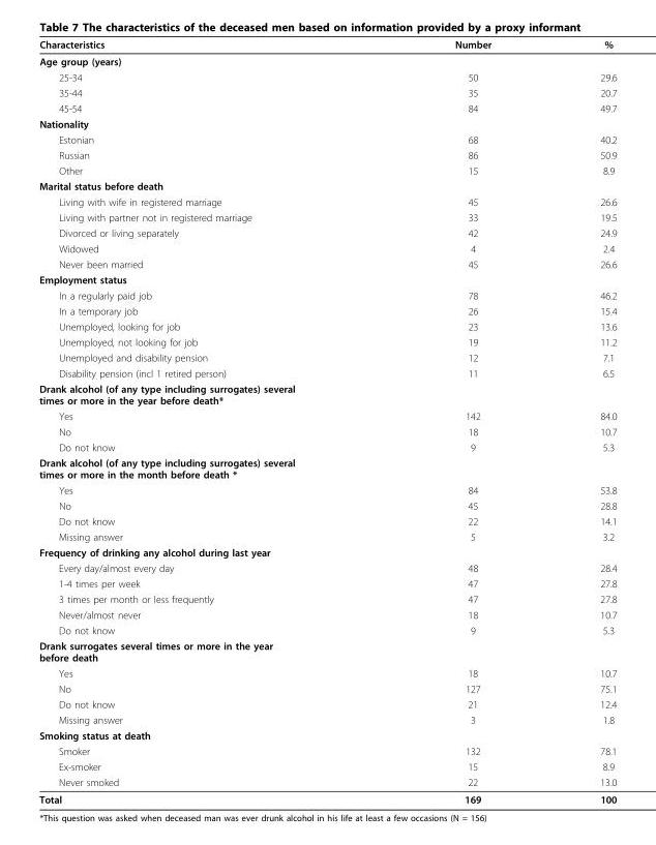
<table><thead><tr><td>Characteristics</td><td>Number</td><td>%</td></tr></thead><tbody><tr><td colspan="3">Age group (years)</td></tr><tr><td>25-34</td><td>50</td><td>29.6</td></tr><tr><td>35-44</td><td>35</td><td>20.7</td></tr><tr><td>45-54</td><td>84</td><td>49.7</td></tr><tr><td colspan="3">Nationality</td></tr><tr><td>Estonian</td><td>68</td><td>40.2</td></tr><tr><td>Russian</td><td>86</td><td>50.9</td></tr><tr><td>Other</td><td>15</td><td>8.9</td></tr><tr><td colspan="3">Marital status before death</td></tr><tr><td>Living with wife in registered marriage</td><td>45</td><td>26.6</td></tr><tr><td>Living with partner not in registered marriage</td><td>33</td><td>19.5</td></tr><tr><td>Divorced or living separately</td><td>42</td><td>24.9</td></tr><tr><td>Widowed</td><td>4</td><td>2.4</td></tr><tr><td>Never been married</td><td>45</td><td>26.6</td></tr><tr><td colspan="3">Employment status</td></tr><tr><td>In a regularly paid job</td><td>78</td><td>46.2</td></tr><tr><td>In a temporary job</td><td>26</td><td>15.4</td></tr><tr><td>Unemployed, looking for job</td><td>23</td><td>13.6</td></tr><tr><td>Unemployed, not looking for job</td><td>19</td><td>11.2</td></tr><tr><td>Unemployed and disability pension</td><td>12</td><td>7.1</td></tr><tr><td>Disability pension (incl 1 retired person)</td><td>11</td><td>6.5</td></tr><tr><td colspan="3">Drank alcohol (of any type including surrogates) several times or more in the year before death*</td></tr><tr><td>Yes</td><td>142</td><td>84.0</td></tr><tr><td>No</td><td>18</td><td>10.7</td></tr><tr><td>Do not know</td><td>9</td><td>5.3</td></tr><tr><td colspan="3">Drank alcohol (of any type including surrogates) several times or more in the month before death *</td></tr><tr><td>Yes</td><td>84</td><td>53.8</td></tr><tr><td>No</td><td>45</td><td>28.8</td></tr><tr><td>Do not know</td><td>22</td><td>14.1</td></tr><tr><td>Missing answer</td><td>5</td><td>3.2</td></tr><tr><td colspan="3">Frequency of drinking any alcohol during last year</td></tr><tr><td>Every day/almost every day</td><td>48</td><td>28.4</td></tr><tr><td>1-4 times per week</td><td>47</td><td>27.8</td></tr><tr><td>3 times per month or less frequently</td><td>47</td><td>27.8</td></tr><tr><td>Never/almost never</td><td>18</td><td>10.7</td></tr><tr><td>Do not know</td><td>9</td><td>5.3</td></tr><tr><td colspan="3">Drank surrogates several times or more in the year before death</td></tr><tr><td>Yes</td><td>18</td><td>10.7</td></tr><tr><td>No</td><td>127</td><td>75.1</td></tr><tr><td>Do not know</td><td>21</td><td>12.4</td></tr><tr><td>Missing answer</td><td>3</td><td>1.8</td></tr><tr><td colspan="3">Smoking status at death</td></tr><tr><td>Smoker</td><td>132</td><td>78.1</td></tr><tr><td>Ex-smoker</td><td>15</td><td>8.9</td></tr><tr><td>Never smoked</td><td>22</td><td>13.0</td></tr><tr><td>Total</td><td>169</td><td>100</td></tr></tbody></table>